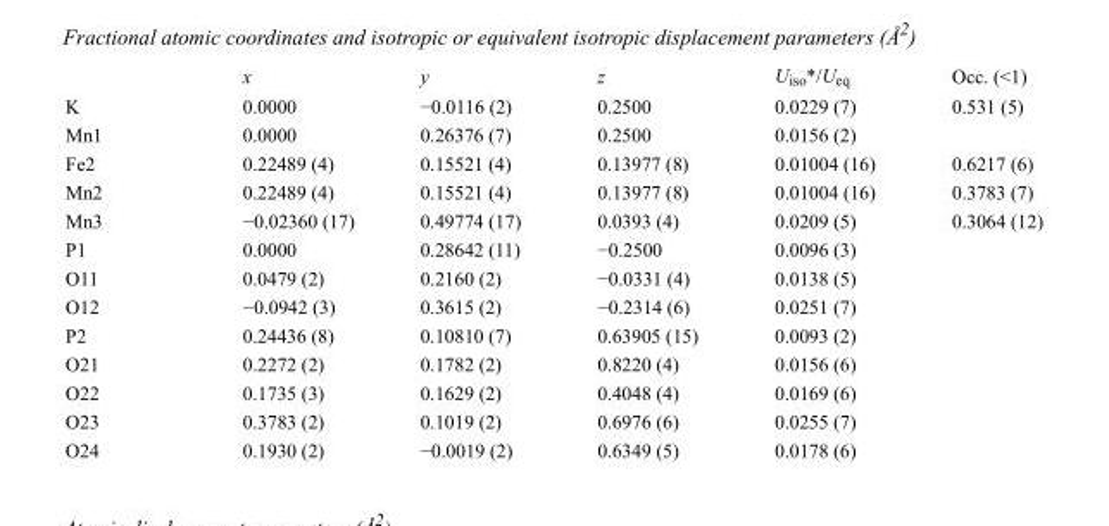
<table><thead><tr><td></td><td>x</td><td>y</td><td>z</td><td>U<sub>iso</sub>*/U<sub>eq</sub></td><td>Occ. (&lt;1)</td></tr></thead><tbody><tr><td>K</td><td>0.0000</td><td>−0.0116 (2)</td><td>0.2500</td><td>0.0229 (7)</td><td>0.531 (5)</td></tr><tr><td>Mn1</td><td>0.0000</td><td>0.26376 (7)</td><td>0.2500</td><td>0.0156 (2)</td><td></td></tr><tr><td>Fe2</td><td>0.22489 (4)</td><td>0.15521 (4)</td><td>0.13977 (8)</td><td>0.01004 (16)</td><td>0.6217 (6)</td></tr><tr><td>Mn2</td><td>0.22489 (4)</td><td>0.15521 (4)</td><td>0.13977 (8)</td><td>0.01004 (16)</td><td>0.3783 (7)</td></tr><tr><td>Mn3</td><td>−0.02360 (17)</td><td>0.49774 (17)</td><td>0.0393 (4)</td><td>0.0209 (5)</td><td>0.3064 (12)</td></tr><tr><td>P1</td><td>0.0000</td><td>0.28642 (11)</td><td>−0.2500</td><td>0.0096 (3)</td><td></td></tr><tr><td>O11</td><td>0.0479 (2)</td><td>0.2160 (2)</td><td>−0.0331 (4)</td><td>0.0138 (5)</td><td></td></tr><tr><td>O12</td><td>−0.0942 (3)</td><td>0.3615 (2)</td><td>−0.2314 (6)</td><td>0.0251 (7)</td><td></td></tr><tr><td>P2</td><td>0.24436 (8)</td><td>0.10810 (7)</td><td>0.63905 (15)</td><td>0.0093 (2)</td><td></td></tr><tr><td>O21</td><td>0.2272 (2)</td><td>0.1782 (2)</td><td>0.8220 (4)</td><td>0.0156 (6)</td><td></td></tr><tr><td>O22</td><td>0.1735 (3)</td><td>0.1629 (2)</td><td>0.4048 (4)</td><td>0.0169 (6)</td><td></td></tr><tr><td>O23</td><td>0.3783 (2)</td><td>0.1019 (2)</td><td>0.6976 (6)</td><td>0.0255 (7)</td><td></td></tr><tr><td>O24</td><td>0.1930 (2)</td><td>−0.0019 (2)</td><td>0.6349 (5)</td><td>0.0178 (6)</td><td></td></tr></tbody></table>